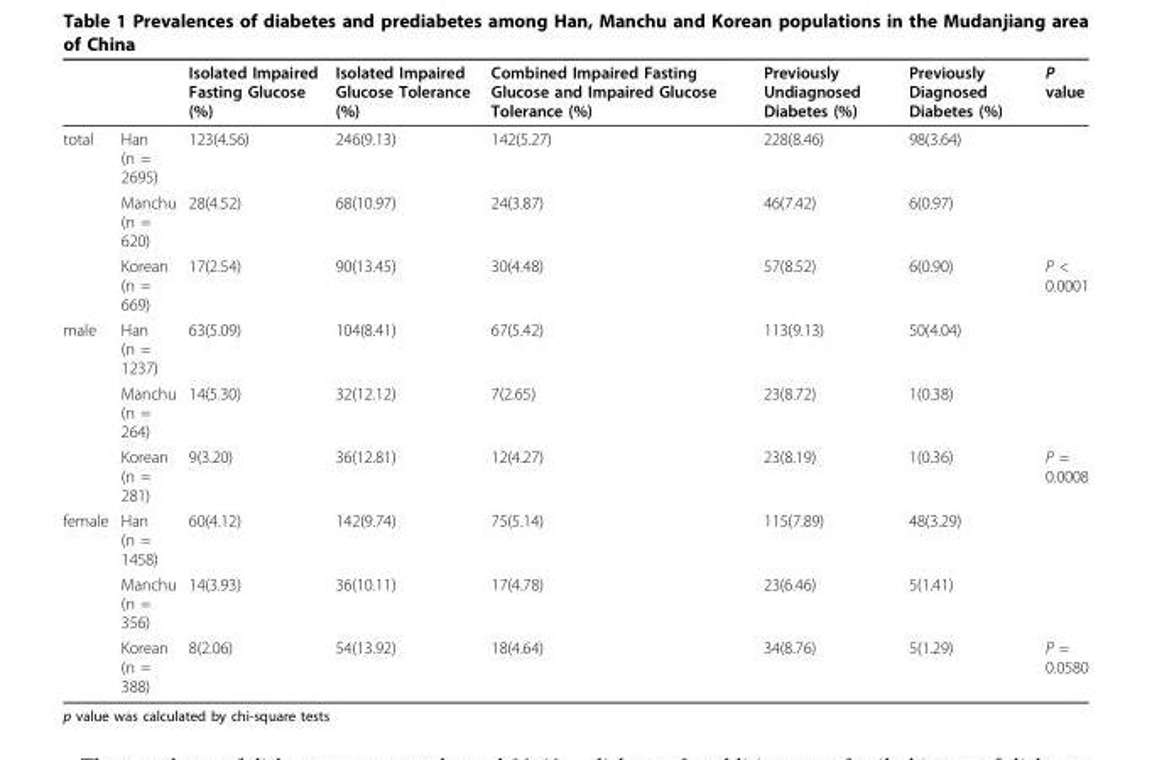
<table><thead><tr><td></td><td></td><td>Isolated Impaired Fasting Glucose (%)</td><td>Isolated Impaired Glucose Tolerance (%)</td><td>Combined Impaired Fasting Glucose and Impaired Glucose Tolerance (%)</td><td>Previously Undiagnosed Diabetes (%)</td><td>Previously Diagnosed Diabetes (%)</td><td>P value</td></tr></thead><tbody><tr><td rowspan="3">total</td><td>Han (n = 2695)</td><td>123(4.56)</td><td>246(9.13)</td><td>142(5.27)</td><td>228(8.46)</td><td>98(3.64)</td><td></td></tr><tr><td>Manchu (n = 620)</td><td>28(4.52)</td><td>68(10.97)</td><td>24(3.87)</td><td>46(7.42)</td><td>6(0.97)</td><td></td></tr><tr><td>Korean (n = 669)</td><td>17(2.54)</td><td>90(13.45)</td><td>30(4.48)</td><td>57(8.52)</td><td>6(0.90)</td><td>P &lt; 0.0001</td></tr><tr><td rowspan="3">male</td><td>Han (n = 1237)</td><td>63(5.09)</td><td>104(8.41)</td><td>67(5.42)</td><td>113(9.13)</td><td>50(4.04)</td><td></td></tr><tr><td>Manchu (n = 264)</td><td>14(5.30)</td><td>32(12.12)</td><td>7(2.65)</td><td>23(8.72)</td><td>1(0.38)</td><td></td></tr><tr><td>Korean (n = 281)</td><td>9(3.20)</td><td>36(12.81)</td><td>12(4.27)</td><td>23(8.19)</td><td>1(0.36)</td><td>P = 0.0008</td></tr><tr><td rowspan="3">female</td><td>Han (n = 1458)</td><td>60(4.12)</td><td>142(9.74)</td><td>75(5.14)</td><td>115(7.89)</td><td>48(3.29)</td><td></td></tr><tr><td>Manchu (n = 356)</td><td>14(3.93)</td><td>36(10.11)</td><td>17(4.78)</td><td>23(6.46)</td><td>5(1.41)</td><td></td></tr><tr><td>Korean (n = 388)</td><td>8(2.06)</td><td>54(13.92)</td><td>18(4.64)</td><td>34(8.76)</td><td>5(1.29)</td><td>P = 0.0580</td></tr></tbody></table>